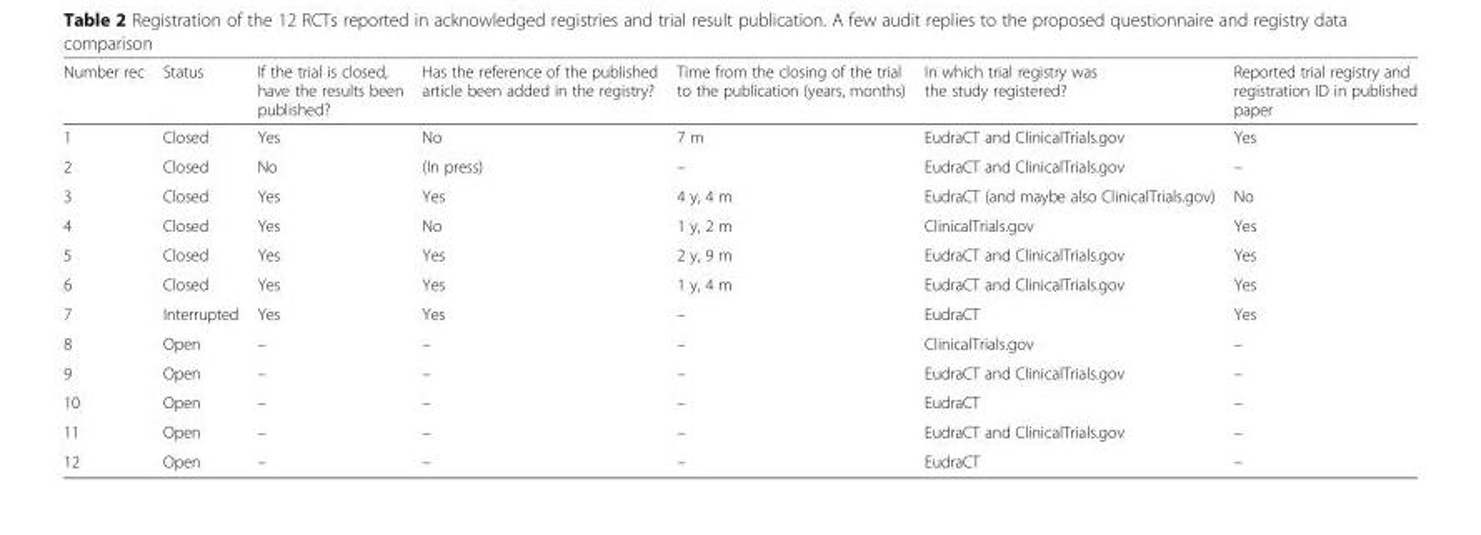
<table><thead><tr><td>Number rec</td><td>Status</td><td>If the trial is closed, have the results been published?</td><td>Has the reference of the published article been added in the registry?</td><td>Time from the closing of the trial to the publication (years, months)</td><td>In which trial registry was the study registered?</td><td>Reported trial registry and registration ID in published paper</td></tr></thead><tbody><tr><td>1</td><td>Closed</td><td>Yes</td><td>No</td><td>7 m</td><td>EudraCT and ClinicalTrials.gov</td><td>Yes</td></tr><tr><td>2</td><td>Closed</td><td>No</td><td>(In press)</td><td>–</td><td>EudraCT and ClinicalTrials.gov</td><td>–</td></tr><tr><td>3</td><td>Closed</td><td>Yes</td><td>Yes</td><td>4 y, 4 m</td><td>EudraCT (and maybe also ClinicalTrials.gov)</td><td>No</td></tr><tr><td>4</td><td>Closed</td><td>Yes</td><td>No</td><td>1 y, 2 m</td><td>ClinicalTrials.gov</td><td>Yes</td></tr><tr><td>5</td><td>Closed</td><td>Yes</td><td>Yes</td><td>2 y, 9 m</td><td>EudraCT and ClinicalTrials.gov</td><td>Yes</td></tr><tr><td>6</td><td>Closed</td><td>Yes</td><td>Yes</td><td>1 y, 4 m</td><td>EudraCT and ClinicalTrials.gov</td><td>Yes</td></tr><tr><td>7</td><td>Interrupted</td><td>Yes</td><td>Yes</td><td>–</td><td>EudraCT</td><td>Yes</td></tr><tr><td>8</td><td>Open</td><td>–</td><td>–</td><td>–</td><td>ClinicalTrials.gov</td><td>–</td></tr><tr><td>9</td><td>Open</td><td>–</td><td>–</td><td>–</td><td>EudraCT and ClinicalTrials.gov</td><td>–</td></tr><tr><td>10</td><td>Open</td><td>–</td><td>–</td><td>–</td><td>EudraCT</td><td>–</td></tr><tr><td>11</td><td>Open</td><td>–</td><td>–</td><td>–</td><td>EudraCT and ClinicalTrials.gov</td><td>–</td></tr><tr><td>12</td><td>Open</td><td>–</td><td>–</td><td>–</td><td>EudraCT</td><td>–</td></tr></tbody></table>